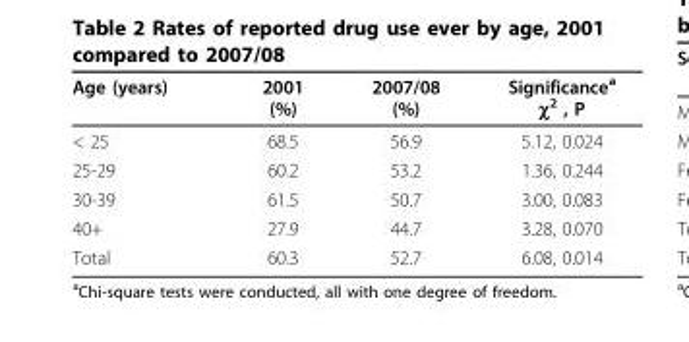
<table><thead><tr><td>Age (years)</td><td>2001 (%)</td><td>2007/08 (%)</td><td>Significance<sup>a</sup> χ<sup>2</sup> , P</td></tr></thead><tbody><tr><td>&lt; 25</td><td>68.5</td><td>56.9</td><td>5.12, 0.024</td></tr><tr><td>25-29</td><td>60.2</td><td>53.2</td><td>1.36, 0.244</td></tr><tr><td>30-39</td><td>61.5</td><td>50.7</td><td>3.00, 0.083</td></tr><tr><td>40+</td><td>27.9</td><td>44.7</td><td>3.28, 0.070</td></tr><tr><td>Total</td><td>60.3</td><td>52.7</td><td>6.08, 0.014</td></tr></tbody></table>